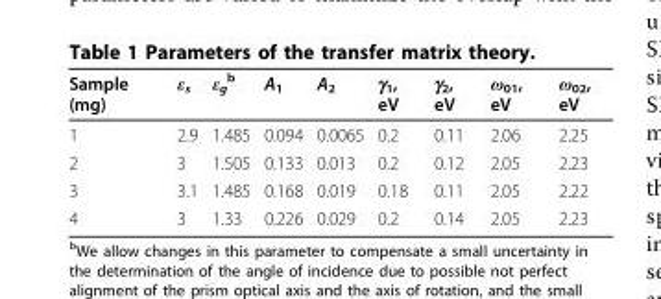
<table><thead><tr><td>Sample (mg)</td><td>ε<sub>s</sub></td><td>ε<sub>g</sub> <sup>b</sup></td><td>A<sub>1</sub></td><td>A<sub>2</sub></td><td>γ<sub>1</sub>, eV</td><td>γ<sub>2</sub>, eV</td><td>ω<sub>01</sub>, eV</td><td>ω<sub>02</sub>, eV</td></tr></thead><tbody><tr><td>1</td><td>2.9</td><td>1.485</td><td>0.094</td><td>0.0065</td><td>0.2</td><td>0.11</td><td>2.06</td><td>2.25</td></tr><tr><td>2</td><td>3</td><td>1.505</td><td>0.133</td><td>0.013</td><td>0.2</td><td>0.12</td><td>2.05</td><td>2.23</td></tr><tr><td>3</td><td>3.1</td><td>1.485</td><td>0.168</td><td>0.019</td><td>0.18</td><td>0.11</td><td>2.05</td><td>2.22</td></tr><tr><td>4</td><td>3</td><td>1.33</td><td>0.226</td><td>0.029</td><td>0.2</td><td>0.14</td><td>2.05</td><td>2.23</td></tr></tbody></table>